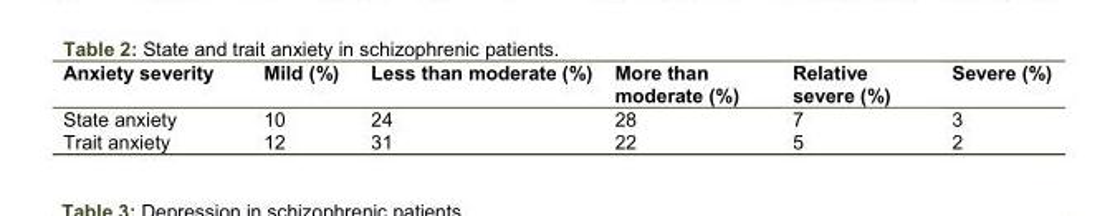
<table><thead><tr><td>Severe (%)</td><td>Relative severe (%)</td><td>More than moderate (%)</td><td>Less than moderate (%)</td><td>Mild (%)</td><td>Anxiety severity</td></tr></thead><tbody><tr><td>3</td><td>7</td><td>28</td><td>24</td><td>10</td><td>State anxiety</td></tr><tr><td>2</td><td>5</td><td>22</td><td>31</td><td>12</td><td>Trait anxiety</td></tr></tbody></table>